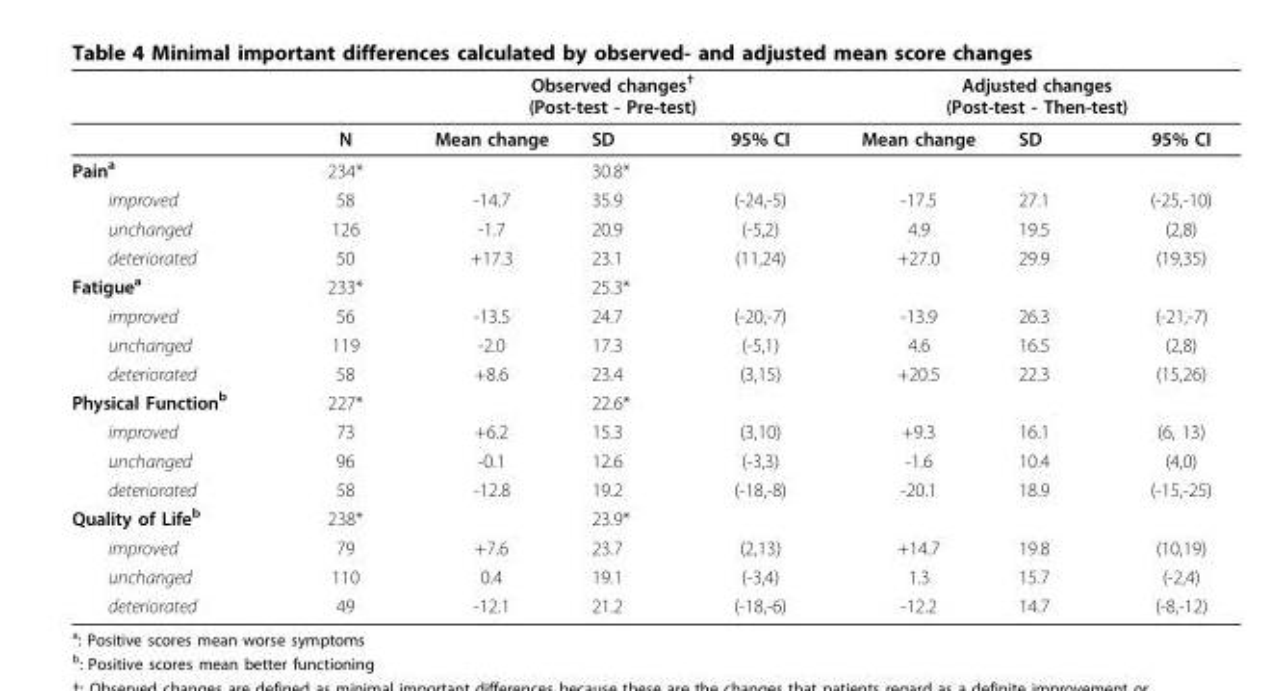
<table><thead><tr><td rowspan="2"></td><td rowspan="2">N</td><td colspan="3">Observed changes<sup>†</sup> (Post-test - Pre-test)</td><td colspan="3">Adjusted changes (Post-test - Then-test)</td></tr><tr><td>Mean change</td><td>SD</td><td>95% CI</td><td>Mean change</td><td>SD</td><td>95% CI</td></tr></thead><tbody><tr><td>Pain<sup>a</sup></td><td>234*</td><td></td><td>30.8*</td><td></td><td></td><td></td><td></td></tr><tr><td>improved</td><td>58</td><td>-14.7</td><td>35.9</td><td>(-24,-5)</td><td>-17.5</td><td>27.1</td><td>(-25,-10)</td></tr><tr><td>unchanged</td><td>126</td><td>-1.7</td><td>20.9</td><td>(-5,2)</td><td>4.9</td><td>19.5</td><td>(2,8)</td></tr><tr><td>deteriorated</td><td>50</td><td>+17.3</td><td>23.1</td><td>(11,24)</td><td>+27.0</td><td>29.9</td><td>(19,35)</td></tr><tr><td>Fatigue<sup>a</sup></td><td>233*</td><td></td><td>25.3*</td><td></td><td></td><td></td><td></td></tr><tr><td>improved</td><td>56</td><td>-13.5</td><td>24.7</td><td>(-20,-7)</td><td>-13.9</td><td>26.3</td><td>(-21,-7)</td></tr><tr><td>unchanged</td><td>119</td><td>-2.0</td><td>17.3</td><td>(-5,1)</td><td>4.6</td><td>16.5</td><td>(2,8)</td></tr><tr><td>deteriorated</td><td>58</td><td>+8.6</td><td>23.4</td><td>(3,15)</td><td>+20.5</td><td>22.3</td><td>(15,26)</td></tr><tr><td>Physical Function<sup>b</sup></td><td>227*</td><td></td><td>22.6*</td><td></td><td></td><td></td><td></td></tr><tr><td>improved</td><td>73</td><td>+6.2</td><td>15.3</td><td>(3,10)</td><td>+9.3</td><td>16.1</td><td>(6, 13)</td></tr><tr><td>unchanged</td><td>96</td><td>-0.1</td><td>12.6</td><td>(-3,3)</td><td>-1.6</td><td>10.4</td><td>(4,0)</td></tr><tr><td>deteriorated</td><td>58</td><td>-12.8</td><td>19.2</td><td>(-18,-8)</td><td>-20.1</td><td>18.9</td><td>(-15,-25)</td></tr><tr><td>Quality of Life<sup>b</sup></td><td>238*</td><td></td><td>23.9*</td><td></td><td></td><td></td><td></td></tr><tr><td>improved</td><td>79</td><td>+7.6</td><td>23.7</td><td>(2,13)</td><td>+14.7</td><td>19.8</td><td>(10,19)</td></tr><tr><td>unchanged</td><td>110</td><td>0.4</td><td>19.1</td><td>(-3,4)</td><td>1.3</td><td>15.7</td><td>(-2,4)</td></tr><tr><td>deteriorated</td><td>49</td><td>-12.1</td><td>21.2</td><td>(-18,-6)</td><td>-12.2</td><td>14.7</td><td>(-8,-12)</td></tr></tbody></table>